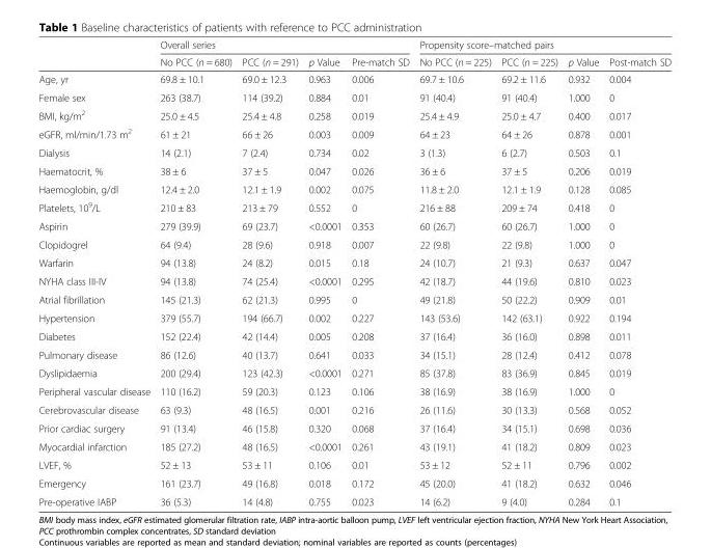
<table><thead><tr><td rowspan="2"></td><td colspan="4">Overall series</td><td colspan="4">Propensity score–matched pairs</td></tr><tr><td>No PCC (n = 680)</td><td>PCC (n = 291)</td><td>p Value</td><td>Pre-match SD</td><td>No PCC (n = 225)</td><td>PCC (n = 225)</td><td>p Value</td><td>Post-match SD</td></tr></thead><tbody><tr><td>Age, yr</td><td>69.8 ± 10.1</td><td>69.0 ± 12.3</td><td>0.963</td><td>0.006</td><td>69.7 ± 10.6</td><td>69.2 ± 11.6</td><td>0.932</td><td>0.004</td></tr><tr><td>Female sex</td><td>263 (38.7)</td><td>114 (39.2)</td><td>0.884</td><td>0.01</td><td>91 (40.4)</td><td>91 (40.4)</td><td>1.000</td><td>0</td></tr><tr><td>BMI, kg/m<sup>2</sup></td><td>25.0 ± 4.5</td><td>25.4 ± 4.8</td><td>0.258</td><td>0.019</td><td>25.4 ± 4.9</td><td>25.0 ± 4.7</td><td>0.400</td><td>0.017</td></tr><tr><td>eGFR, ml/min/1.73 m<sup>2</sup></td><td>61 ± 21</td><td>66 ± 26</td><td>0.003</td><td>0.009</td><td>64 ± 23</td><td>64 ± 26</td><td>0.878</td><td>0.001</td></tr><tr><td>Dialysis</td><td>14 (2.1)</td><td>7 (2.4)</td><td>0.734</td><td>0.02</td><td>3 (1.3)</td><td>6 (2.7)</td><td>0.503</td><td>0.1</td></tr><tr><td>Haematocrit, %</td><td>38 ± 6</td><td>37 ± 5</td><td>0.047</td><td>0.026</td><td>36 ± 6</td><td>37 ± 5</td><td>0.206</td><td>0.019</td></tr><tr><td>Haemoglobin, g/dl</td><td>12.4 ± 2.0</td><td>12.1 ± 1.9</td><td>0.002</td><td>0.075</td><td>11.8 ± 2.0</td><td>12.1 ± 1.9</td><td>0.128</td><td>0.085</td></tr><tr><td>Platelets, 10<sup>9</sup>/L</td><td>210 ± 83</td><td>213 ± 79</td><td>0.552</td><td>0</td><td>216 ± 88</td><td>209 ± 74</td><td>0.418</td><td>0</td></tr><tr><td>Aspirin</td><td>279 (39.9)</td><td>69 (23.7)</td><td>&lt;0.0001</td><td>0.353</td><td>60 (26.7)</td><td>60 (26.7)</td><td>1.000</td><td>0</td></tr><tr><td>Clopidogrel</td><td>64 (9.4)</td><td>28 (9.6)</td><td>0.918</td><td>0.007</td><td>22 (9.8)</td><td>22 (9.8)</td><td>1.000</td><td>0</td></tr><tr><td>Warfarin</td><td>94 (13.8)</td><td>24 (8.2)</td><td>0.015</td><td>0.18</td><td>24 (10.7)</td><td>21 (9.3)</td><td>0.637</td><td>0.047</td></tr><tr><td>NYHA class III-IV</td><td>94 (13.8)</td><td>74 (25.4)</td><td>&lt;0.0001</td><td>0.295</td><td>42 (18.7)</td><td>44 (19.6)</td><td>0.810</td><td>0.023</td></tr><tr><td>Atrial fibrillation</td><td>145 (21.3)</td><td>62 (21.3)</td><td>0.995</td><td>0</td><td>49 (21.8)</td><td>50 (22.2)</td><td>0.909</td><td>0.01</td></tr><tr><td>Hypertension</td><td>379 (55.7)</td><td>194 (66.7)</td><td>0.002</td><td>0.227</td><td>143 (53.6)</td><td>142 (63.1)</td><td>0.922</td><td>0.194</td></tr><tr><td>Diabetes</td><td>152 (22.4)</td><td>42 (14.4)</td><td>0.005</td><td>0.208</td><td>37 (16.4)</td><td>36 (16.0)</td><td>0.898</td><td>0.011</td></tr><tr><td>Pulmonary disease</td><td>86 (12.6)</td><td>40 (13.7)</td><td>0.641</td><td>0.033</td><td>34 (15.1)</td><td>28 (12.4)</td><td>0.412</td><td>0.078</td></tr><tr><td>Dyslipidaemia</td><td>200 (29.4)</td><td>123 (42.3)</td><td>&lt;0.0001</td><td>0.271</td><td>85 (37.8)</td><td>83 (36.9)</td><td>0.845</td><td>0.019</td></tr><tr><td>Peripheral vascular disease</td><td>110 (16.2)</td><td>59 (20.3)</td><td>0.123</td><td>0.106</td><td>38 (16.9)</td><td>38 (16.9)</td><td>1.000</td><td>0</td></tr><tr><td>Cerebrovascular disease</td><td>63 (9.3)</td><td>48 (16.5)</td><td>0.001</td><td>0.216</td><td>26 (11.6)</td><td>30 (13.3)</td><td>0.568</td><td>0.052</td></tr><tr><td>Prior cardiac surgery</td><td>91 (13.4)</td><td>46 (15.8)</td><td>0.320</td><td>0.068</td><td>37 (16.4)</td><td>34 (15.1)</td><td>0.698</td><td>0.036</td></tr><tr><td>Myocardial infarction</td><td>185 (27.2)</td><td>48 (16.5)</td><td>&lt;0.0001</td><td>0.261</td><td>43 (19.1)</td><td>41 (18.2)</td><td>0.809</td><td>0.023</td></tr><tr><td>LVEF, %</td><td>52 ± 13</td><td>53 ± 11</td><td>0.106</td><td>0.01</td><td>53 ± 12</td><td>52 ± 11</td><td>0.796</td><td>0.002</td></tr><tr><td>Emergency</td><td>161 (23.7)</td><td>49 (16.8)</td><td>0.018</td><td>0.172</td><td>45 (20.0)</td><td>41 (18.2)</td><td>0.632</td><td>0.046</td></tr><tr><td>Pre-operative IABP</td><td>36 (5.3)</td><td>14 (4.8)</td><td>0.755</td><td>0.023</td><td>14 (6.2)</td><td>9 (4.0)</td><td>0.284</td><td>0.1</td></tr></tbody></table>